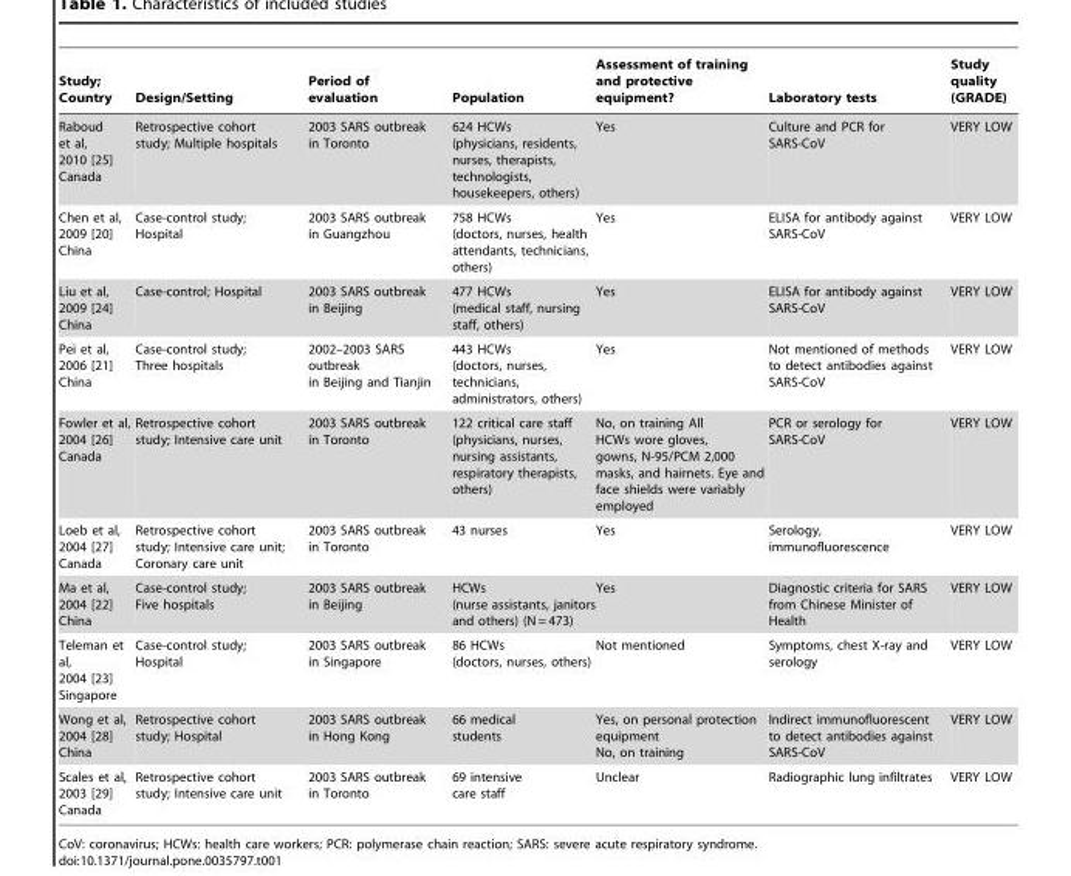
<table><thead><tr><td>Study; Country</td><td>Design/Setting</td><td>Period of evaluation</td><td>Population</td><td>Assessment of training and protective equipment?</td><td>Laboratory tests</td><td>Study quality (GRADE)</td></tr></thead><tbody><tr><td>Raboud et al, 2010 [25] Canada</td><td>Retrospective cohort study; Multiple hospitals</td><td>2003 SARS outbreak in Toronto</td><td>624 HCWs (physicians, residents, nurses, therapists, technologists, housekeepers, others)</td><td>Yes</td><td>Culture and PCR for SARS-CoV</td><td>VERY LOW</td></tr><tr><td>Chen et al, 2009 [20] China</td><td>Case-control study; Hospital</td><td>2003 SARS outbreak in Guangzhou</td><td>758 HCWs (doctors, nurses, health attendants, technicians, others)</td><td>Yes</td><td>ELISA for antibody against SARS-CoV</td><td>VERY LOW</td></tr><tr><td>Liu et al, 2009 [24] China</td><td>Case-control; Hospital</td><td>2003 SARS outbreak in Beijing</td><td>477 HCWs (medical staff, nursing staff, others)</td><td>Yes</td><td>ELISA for antibody against SARS-CoV</td><td>VERY LOW</td></tr><tr><td>Pei et al, 2006 [21] China</td><td>Case-control study; Three hospitals</td><td>2002–2003 SARS outbreak in Beijing and Tianjin</td><td>443 HCWs (doctors, nurses, technicians, administrators, others)</td><td>Yes</td><td>Not mentioned of methods to detect antibodies against SARS-CoV</td><td>VERY LOW</td></tr><tr><td>Fowler et al, 2004 [26] Canada</td><td>Retrospective cohort study; Intensive care unit</td><td>2003 SARS outbreak in Toronto</td><td>122 critical care staff (physicians, nurses, nursing assistants, respiratory therapists, others)</td><td>No, on training All HCWs wore gloves, gowns, N-95/PCM 2,000 masks, and hairnets. Eye and face shields were variably employed</td><td>PCR or serology for SARS-CoV</td><td>VERY LOW</td></tr><tr><td>Loeb et al, 2004 [27] Canada</td><td>Retrospective cohort study; Intensive care unit; Coronary care unit</td><td>2003 SARS outbreak in Toronto</td><td>43 nurses</td><td>Yes</td><td>Serology, immunofluorescence</td><td>VERY LOW</td></tr><tr><td>Ma et al, 2004 [22] China</td><td>Case-control study; Five hospitals</td><td>2003 SARS outbreak in Beijing</td><td>HCWs (nurse assistants, janitors and others) (N = 473)</td><td>Yes</td><td>Diagnostic criteria for SARS from Chinese Minister of Health</td><td>VERY LOW</td></tr><tr><td>Teleman et al, 2004 [23] Singapore</td><td>Case-control study; Hospital</td><td>2003 SARS outbreak in Singapore</td><td>86 HCWs (doctors, nurses, others)</td><td>Not mentioned</td><td>Symptoms, chest X-ray and serology</td><td>VERY LOW</td></tr><tr><td>Wong et al, 2004 [28] China</td><td>Retrospective cohort study; Hospital</td><td>2003 SARS outbreak in Hong Kong</td><td>66 medical students</td><td>Yes, on personal protection equipment No, on training</td><td>Indirect immunofluorescent to detect antibodies against SARS-CoV</td><td>VERY LOW</td></tr><tr><td>Scales et al, 2003 [29] Canada</td><td>Retrospective cohort study; Intensive care unit</td><td>2003 SARS outbreak in Toronto</td><td>69 intensive care staff</td><td>Unclear</td><td>Radiographic lung infiltrates</td><td>VERY LOW</td></tr></tbody></table>